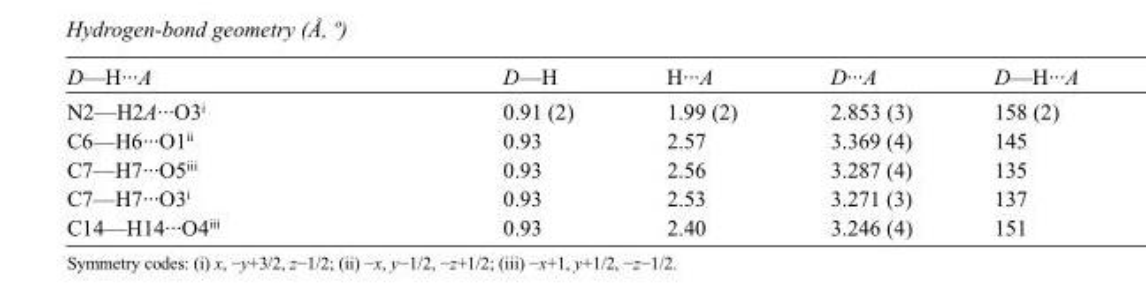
<table><tbody><tr><td>D—H···A</td><td>D—H</td><td>H···A</td><td>D···A</td><td>D—H···A</td></tr><tr><td>N2—H2A···O3<sup>i</sup></td><td>0.91 (2)</td><td>1.99 (2)</td><td>2.853 (3)</td><td>158 (2)</td></tr><tr><td>C6—H6···O1<sup>ii</sup></td><td>0.93</td><td>2.57</td><td>3.369 (4)</td><td>145</td></tr><tr><td>C7—H7···O5<sup>iii</sup></td><td>0.93</td><td>2.56</td><td>3.287 (4)</td><td>135</td></tr><tr><td>C7—H7···O3<sup>i</sup></td><td>0.93</td><td>2.53</td><td>3.271 (3)</td><td>137</td></tr><tr><td>C14—H14···O4<sup>iii</sup></td><td>0.93</td><td>2.40</td><td>3.246 (4)</td><td>151</td></tr></tbody></table>